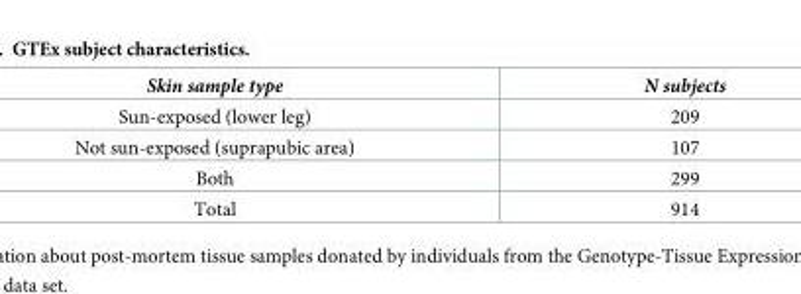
<table><thead><tr><td>Skin sample type</td><td>N subjects</td></tr></thead><tbody><tr><td>Sun-exposed (lower leg)</td><td>209</td></tr><tr><td>Not sun-exposed (suprapubic area)</td><td>107</td></tr><tr><td>Both</td><td>299</td></tr><tr><td>Total</td><td>914</td></tr></tbody></table>